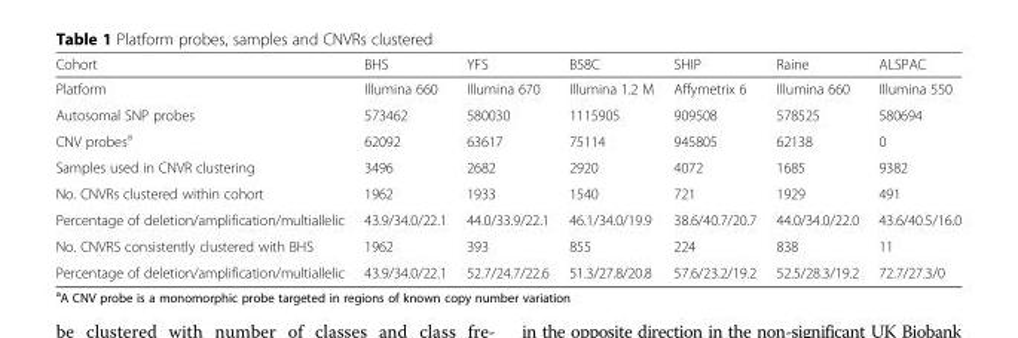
<table><thead><tr><td>Cohort</td><td>BHS</td><td>YFS</td><td>B58C</td><td>SHIP</td><td>Raine</td><td>ALSPAC</td></tr></thead><tbody><tr><td>Platform</td><td>Illumina 660</td><td>Illumina 670</td><td>Illumina 1.2 M</td><td>Affymetrix 6</td><td>Illumina 660</td><td>Illumina 550</td></tr><tr><td>Autosomal SNP probes</td><td>573462</td><td>580030</td><td>1115905</td><td>909508</td><td>578525</td><td>580694</td></tr><tr><td>CNV probes<sup>a</sup></td><td>62092</td><td>63617</td><td>75114</td><td>945805</td><td>62138</td><td>0</td></tr><tr><td>Samples used in CNVR clustering</td><td>3496</td><td>2682</td><td>2920</td><td>4072</td><td>1685</td><td>9382</td></tr><tr><td>No. CNVRs clustered within cohort</td><td>1962</td><td>1933</td><td>1540</td><td>721</td><td>1929</td><td>491</td></tr><tr><td>Percentage of deletion/amplification/multiallelic</td><td>43.9/34.0/22.1</td><td>44.0/33.9/22.1</td><td>46.1/34.0/19.9</td><td>38.6/40.7/20.7</td><td>44.0/34.0/22.0</td><td>43.6/40.5/16.0</td></tr><tr><td>No. CNVRS consistently clustered with BHS</td><td>1962</td><td>393</td><td>855</td><td>224</td><td>838</td><td>11</td></tr><tr><td>Percentage of deletion/amplification/multiallelic</td><td>43.9/34.0/22.1</td><td>52.7/24.7/22.6</td><td>51.3/27.8/20.8</td><td>57.6/23.2/19.2</td><td>52.5/28.3/19.2</td><td>72.7/27.3/0</td></tr></tbody></table>